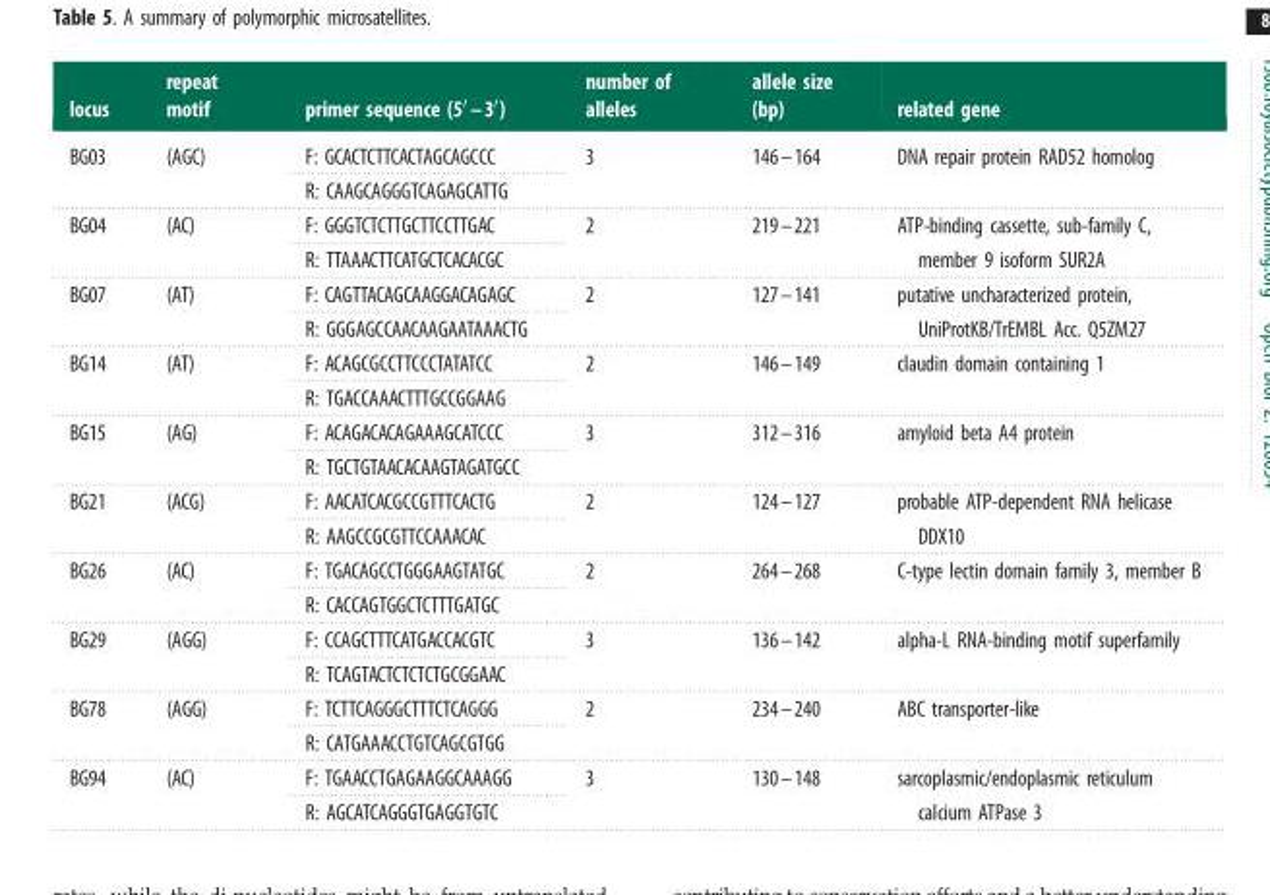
<table><thead><tr><td>locus</td><td>repeat motif</td><td>primer sequence (5′ –3′)</td><td>number of alleles</td><td>allele size (bp)</td><td>related gene</td></tr></thead><tbody><tr><td rowspan="2">BG03</td><td rowspan="2">(AGC)</td><td>F: GCACTCTTCACTAGCAGCCC</td><td rowspan="2">3</td><td rowspan="2">146–164</td><td rowspan="2">DNA repair protein RAD52 homolog</td></tr><tr><td>R: CAAGCAGGGTCAGAGCATTG</td></tr><tr><td rowspan="2">BG04</td><td rowspan="2">(AC)</td><td>F: GGGTCTCTTGCTTCCTTGAC</td><td rowspan="2">2</td><td rowspan="2">219–221</td><td rowspan="2">ATP-binding cassette, sub-family C, member 9 isoform SUR2A</td></tr><tr><td>R: TTAAACTTCATGCTCACACGC</td></tr><tr><td rowspan="2">BG07</td><td rowspan="2">(AT)</td><td>F: CAGTTACAGCAAGGACAGAGC</td><td rowspan="2">2</td><td rowspan="2">127–141</td><td rowspan="2">putative uncharacterized protein, UniProtKB/TrEMBL Acc. Q5ZM27</td></tr><tr><td>R: GGGAGCCAACAAGAATAAACTG</td></tr><tr><td rowspan="2">BG14</td><td rowspan="2">(AT)</td><td>F: ACAGCGCCTTCCCTATATCC</td><td rowspan="2">2</td><td rowspan="2">146–149</td><td rowspan="2">claudin domain containing 1</td></tr><tr><td>R: TGACCAAACTTTGCCGGAAG</td></tr><tr><td rowspan="2">BG15</td><td rowspan="2">(AG)</td><td>F: ACAGACACAGAAAGCATCCC</td><td rowspan="2">3</td><td rowspan="2">312–316</td><td rowspan="2">amyloid beta A4 protein</td></tr><tr><td>R: TGCTGTAACACAAGTAGATGCC</td></tr><tr><td rowspan="2">BG21</td><td rowspan="2">(ACG)</td><td>F: AACATCACGCCGTTTCACTG</td><td rowspan="2">2</td><td rowspan="2">124–127</td><td rowspan="2">probable ATP-dependent RNA helicase DDX10</td></tr><tr><td>R: AAGCCGCGTTCCAAACAC</td></tr><tr><td rowspan="2">BG26</td><td rowspan="2">(AC)</td><td>F: TGACAGCCTGGGAAGTATGC</td><td rowspan="2">2</td><td rowspan="2">264–268</td><td rowspan="2">C-type lectin domain family 3, member B</td></tr><tr><td>R: CACCAGTGGCTCTTTGATGC</td></tr><tr><td rowspan="2">BG29</td><td rowspan="2">(AGG)</td><td>F: CCAGCTTTCATGACCACGTC</td><td rowspan="2">3</td><td rowspan="2">136–142</td><td rowspan="2">alpha-L RNA-binding motif superfamily</td></tr><tr><td>R: TCAGTACTCTCTCTGCGGAAC</td></tr><tr><td rowspan="2">BG78</td><td rowspan="2">(AGG)</td><td>F: TCTTCAGGGCTTTCTCAGGG</td><td rowspan="2">2</td><td rowspan="2">234–240</td><td rowspan="2">ABC transporter-like</td></tr><tr><td>R: CATGAAACCTGTCAGCGTGG</td></tr><tr><td rowspan="2">BG94</td><td rowspan="2">(AC)</td><td>F: TGAACCTGAGAAGGCAAAGG</td><td rowspan="2">3</td><td rowspan="2">130–148</td><td rowspan="2">sarcoplasmic/endoplasmic reticulum calcium ATPase 3</td></tr><tr><td>R: AGCATCAGGGTGAGGTGTC</td></tr></tbody></table>